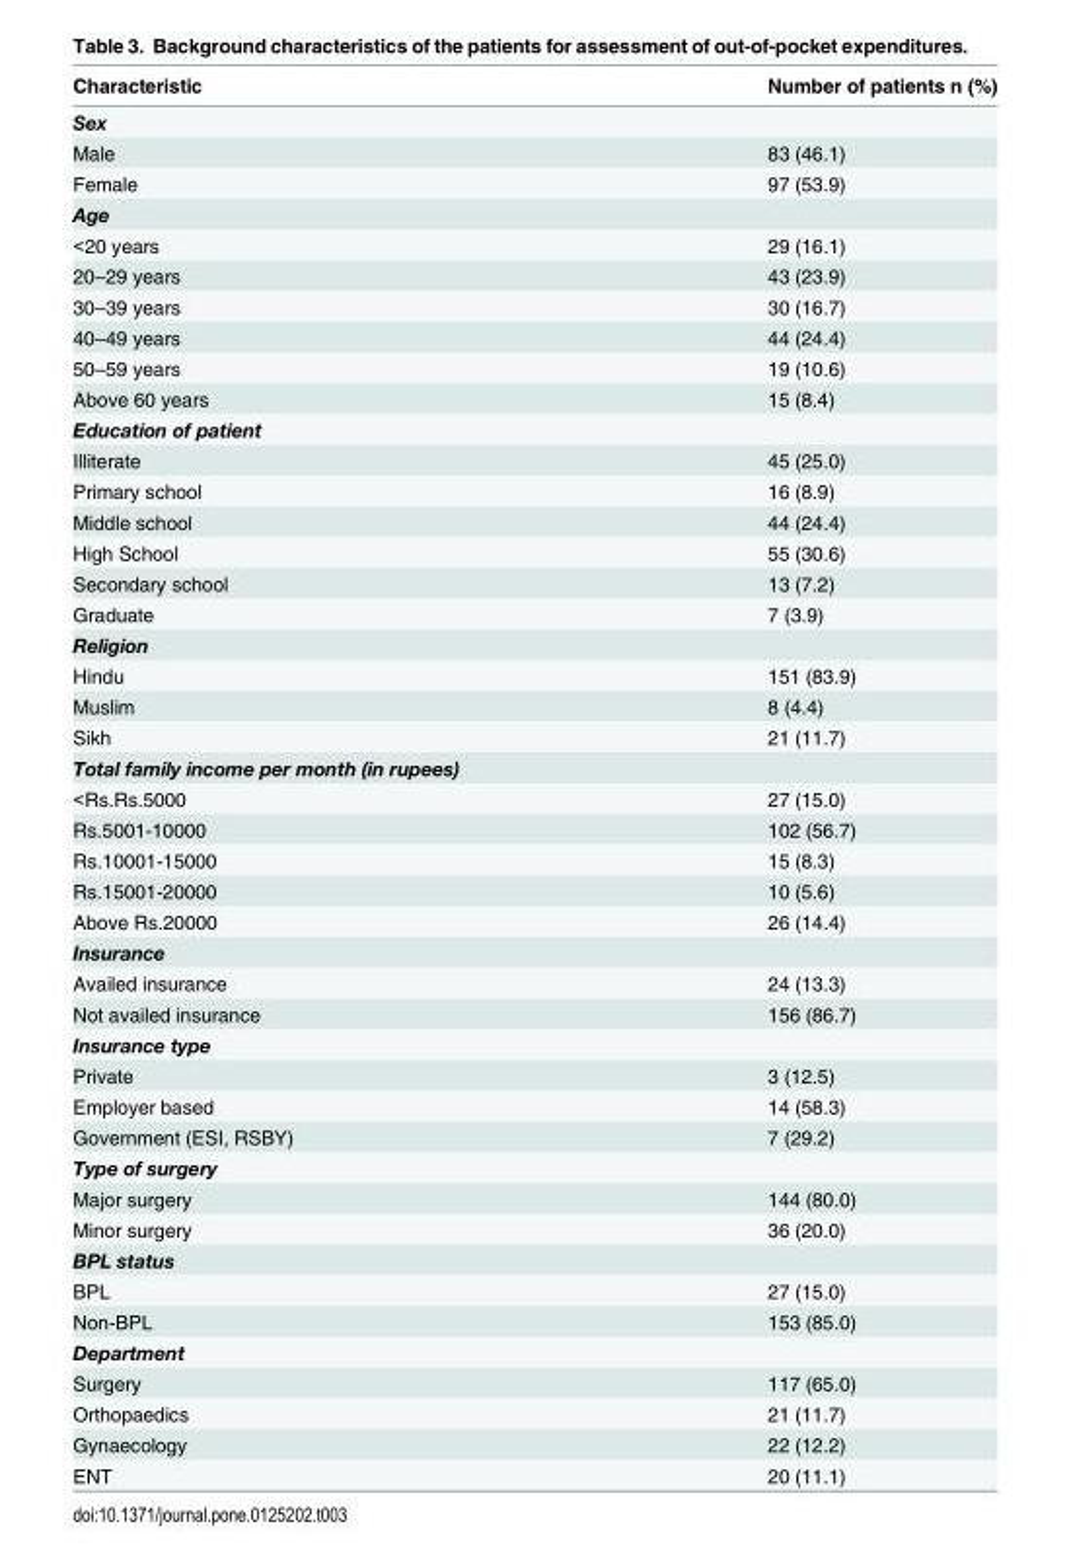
<table><thead><tr><td>Characteristic</td><td>Number of patients n (%)</td></tr></thead><tbody><tr><td colspan="2">Sex</td></tr><tr><td>Male</td><td>83 (46.1)</td></tr><tr><td>Female</td><td>97 (53.9)</td></tr><tr><td colspan="2">Age</td></tr><tr><td>&lt;20 years</td><td>29 (16.1)</td></tr><tr><td>20–29 years</td><td>43 (23.9)</td></tr><tr><td>30–39 years</td><td>30 (16.7)</td></tr><tr><td>40–49 years</td><td>44 (24.4)</td></tr><tr><td>50–59 years</td><td>19 (10.6)</td></tr><tr><td>Above 60 years</td><td>15 (8.4)</td></tr><tr><td colspan="2">Education of patient</td></tr><tr><td>Illiterate</td><td>45 (25.0)</td></tr><tr><td>Primary school</td><td>16 (8.9)</td></tr><tr><td>Middle school</td><td>44 (24.4)</td></tr><tr><td>High School</td><td>55 (30.6)</td></tr><tr><td>Secondary school</td><td>13 (7.2)</td></tr><tr><td>Graduate</td><td>7 (3.9)</td></tr><tr><td colspan="2">Religion</td></tr><tr><td>Hindu</td><td>151 (83.9)</td></tr><tr><td>Muslim</td><td>8 (4.4)</td></tr><tr><td>Sikh</td><td>21 (11.7)</td></tr><tr><td colspan="2">Total family income per month (in rupees)</td></tr><tr><td>&lt;Rs.Rs.5000</td><td>27 (15.0)</td></tr><tr><td>Rs.5001-10000</td><td>102 (56.7)</td></tr><tr><td>Rs.10001-15000</td><td>15 (8.3)</td></tr><tr><td>Rs.15001-20000</td><td>10 (5.6)</td></tr><tr><td>Above Rs.20000</td><td>26 (14.4)</td></tr><tr><td colspan="2">Insurance</td></tr><tr><td>Availed insurance</td><td>24 (13.3)</td></tr><tr><td>Not availed insurance</td><td>156 (86.7)</td></tr><tr><td colspan="2">Insurance type</td></tr><tr><td>Private</td><td>3 (12.5)</td></tr><tr><td>Employer based</td><td>14 (58.3)</td></tr><tr><td>Government (ESI, RSBY)</td><td>7 (29.2)</td></tr><tr><td colspan="2">Type of surgery</td></tr><tr><td>Major surgery</td><td>144 (80.0)</td></tr><tr><td>Minor surgery</td><td>36 (20.0)</td></tr><tr><td colspan="2">BPL status</td></tr><tr><td>BPL</td><td>27 (15.0)</td></tr><tr><td>Non-BPL</td><td>153 (85.0)</td></tr><tr><td colspan="2">Department</td></tr><tr><td>Surgery</td><td>117 (65.0)</td></tr><tr><td>Orthopaedics</td><td>21 (11.7)</td></tr><tr><td>Gynaecology</td><td>22 (12.2)</td></tr><tr><td>ENT</td><td>20 (11.1)</td></tr></tbody></table>